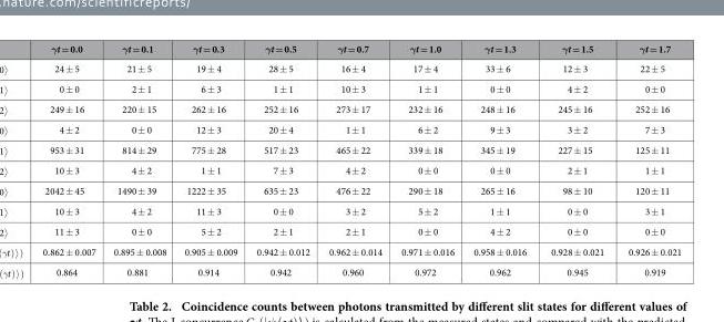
<table><thead><tr><td>γt = 0.0</td><td>γt = 0.1</td><td>γt = 0.3</td><td>γt = 0.5</td><td>γt = 0.7</td><td>γt = 1.0</td><td>γt = 1.3</td><td>γt = 1.5</td><td>γt = 1.7</td></tr></thead><tbody><tr><td>24 ± 5</td><td>21 ± 5</td><td>19 ± 4</td><td>28 ± 5</td><td>16 ± 4</td><td>17 ± 4</td><td>33 ± 6</td><td>12 ± 3</td><td>22 ± 5</td></tr><tr><td>0 ± 0</td><td>2 ± 1</td><td>6 ± 3</td><td>1 ± 1</td><td>10 ± 3</td><td>1 ± 1</td><td>0 ± 0</td><td>4 ± 2</td><td>0 ± 0</td></tr><tr><td>249 ± 16</td><td>220 ± 15</td><td>262 ± 16</td><td>252 ± 16</td><td>273 ± 17</td><td>232 ± 16</td><td>248 ± 16</td><td>245 ± 16</td><td>252 ± 16</td></tr><tr><td>4 ± 2</td><td>0 ± 0</td><td>12 ± 3</td><td>20 ± 4</td><td>1 ± 1</td><td>6 ± 2</td><td>9 ± 3</td><td>3 ± 2</td><td>7 ± 3</td></tr><tr><td>953 ± 31</td><td>814 ± 29</td><td>775 ± 28</td><td>517 ± 23</td><td>465 ± 22</td><td>339 ± 18</td><td>345 ± 19</td><td>227 ± 15</td><td>125 ± 11</td></tr><tr><td>10 ± 3</td><td>4 ± 2</td><td>1 ± 1</td><td>7 ± 3</td><td>4 ± 2</td><td>0 ± 0</td><td>0 ± 0</td><td>2 ± 1</td><td>1 ± 1</td></tr><tr><td>2042 ± 45</td><td>1490 ± 39</td><td>1222 ± 35</td><td>635 ± 23</td><td>476 ± 22</td><td>290 ± 18</td><td>265 ± 16</td><td>98 ± 10</td><td>120 ± 11</td></tr><tr><td>10 ± 3</td><td>4 ± 2</td><td>11 ± 3</td><td>0 ± 0</td><td>3 ± 2</td><td>5 ± 2</td><td>1 ± 1</td><td>0 ± 0</td><td>3 ± 1</td></tr><tr><td>11 ± 3</td><td>0 ± 0</td><td>5 ± 2</td><td>2 ± 1</td><td>2 ± 1</td><td>0 ± 0</td><td>4 ± 2</td><td>0 ± 0</td><td>0 ± 0</td></tr><tr><td>0.862 ± 0.007</td><td>0.895 ± 0.008</td><td>0.905 ± 0.009</td><td>0.942 ± 0.012</td><td>0.962 ± 0.014</td><td>0.971 ± 0.016</td><td>0.958 ± 0.016</td><td>0.928 ± 0.021</td><td>0.926 ± 0.021</td></tr><tr><td>0.864</td><td>0.881</td><td>0.914</td><td>0.942</td><td>0.960</td><td>0.972</td><td>0.962</td><td>0.945</td><td>0.919</td></tr></tbody></table>